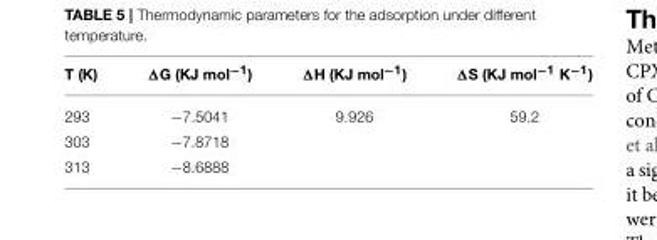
<table><thead><tr><td>T (K)</td><td>ΔG (KJ mol<sup>−1</sup>)</td><td>ΔH (KJ mol<sup>−1</sup>)</td><td>ΔS (KJ mol<sup>−1</sup> K<sup>−1</sup>)</td></tr></thead><tbody><tr><td>293</td><td>−7.5041</td><td>9.926</td><td>59.2</td></tr><tr><td>303</td><td>−7.8718</td><td></td><td></td></tr><tr><td>313</td><td>−8.6888</td><td></td><td></td></tr></tbody></table>